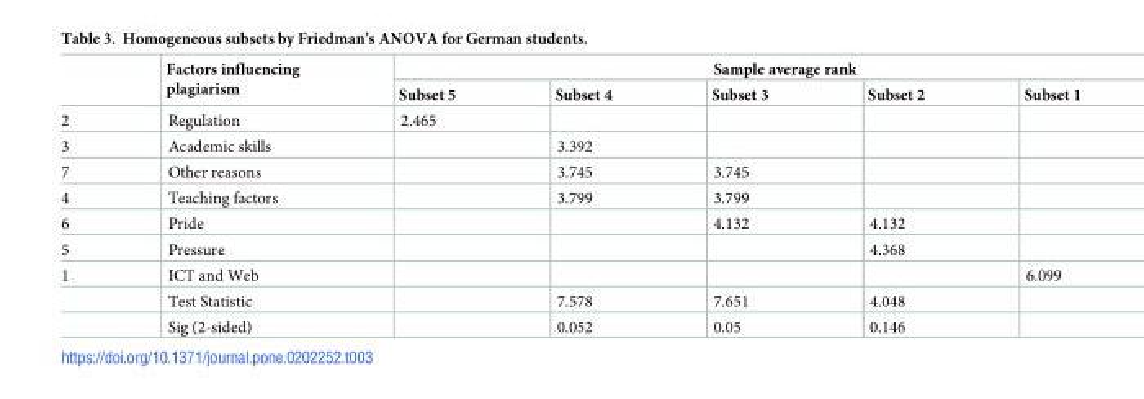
<table><thead><tr><td rowspan="2"></td><td rowspan="2">Factors influencing plagiarism</td><td colspan="5">Sample average rank</td></tr><tr><td>Subset 5</td><td>Subset 4</td><td>Subset 3</td><td>Subset 2</td><td>Subset 1</td></tr></thead><tbody><tr><td>2</td><td>Regulation</td><td>2.465</td><td></td><td></td><td></td><td></td></tr><tr><td>3</td><td>Academic skills</td><td></td><td>3.392</td><td></td><td></td><td></td></tr><tr><td>7</td><td>Other reasons</td><td></td><td>3.745</td><td>3.745</td><td></td><td></td></tr><tr><td>4</td><td>Teaching factors</td><td></td><td>3.799</td><td>3.799</td><td></td><td></td></tr><tr><td>6</td><td>Pride</td><td></td><td></td><td>4.132</td><td>4.132</td><td></td></tr><tr><td>5</td><td>Pressure</td><td></td><td></td><td></td><td>4.368</td><td></td></tr><tr><td rowspan="3">1</td><td>ICT and Web</td><td></td><td></td><td></td><td></td><td>6.099</td></tr><tr><td>Test Statistic</td><td></td><td>7.578</td><td>7.651</td><td>4.048</td><td></td></tr><tr><td>Sig (2-sided)</td><td></td><td>0.052</td><td>0.05</td><td>0.146</td><td></td></tr></tbody></table>